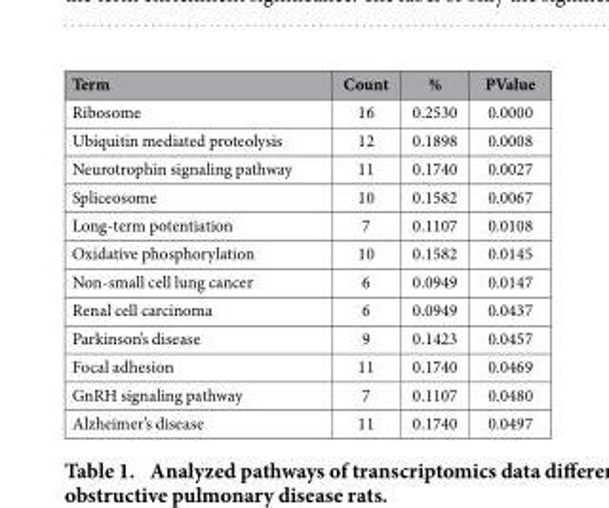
<table><thead><tr><td>Term</td><td>Count</td><td>%</td><td>PValue</td></tr></thead><tbody><tr><td>Ribosome</td><td>16</td><td>0.2530</td><td>0.0000</td></tr><tr><td>Ubiquitin mediated proteolysis</td><td>12</td><td>0.1898</td><td>0.0008</td></tr><tr><td>Neurotrophin signaling pathway</td><td>11</td><td>0.1740</td><td>0.0027</td></tr><tr><td>Spliceosome</td><td>10</td><td>0.1582</td><td>0.0067</td></tr><tr><td>Long-term potentiation</td><td>7</td><td>0.1107</td><td>0.0108</td></tr><tr><td>Oxidative phosphorylation</td><td>10</td><td>0.1582</td><td>0.0145</td></tr><tr><td>Non-small cell lung cancer</td><td>6</td><td>0.0949</td><td>0.0147</td></tr><tr><td>Renal cell carcinoma</td><td>6</td><td>0.0949</td><td>0.0437</td></tr><tr><td>Parkinson’s disease</td><td>9</td><td>0.1423</td><td>0.0457</td></tr><tr><td>Focal adhesion</td><td>11</td><td>0.1740</td><td>0.0469</td></tr><tr><td>GnRH signaling pathway</td><td>7</td><td>0.1107</td><td>0.0480</td></tr><tr><td>Alzheimer’s disease</td><td>11</td><td>0.1740</td><td>0.0497</td></tr></tbody></table>